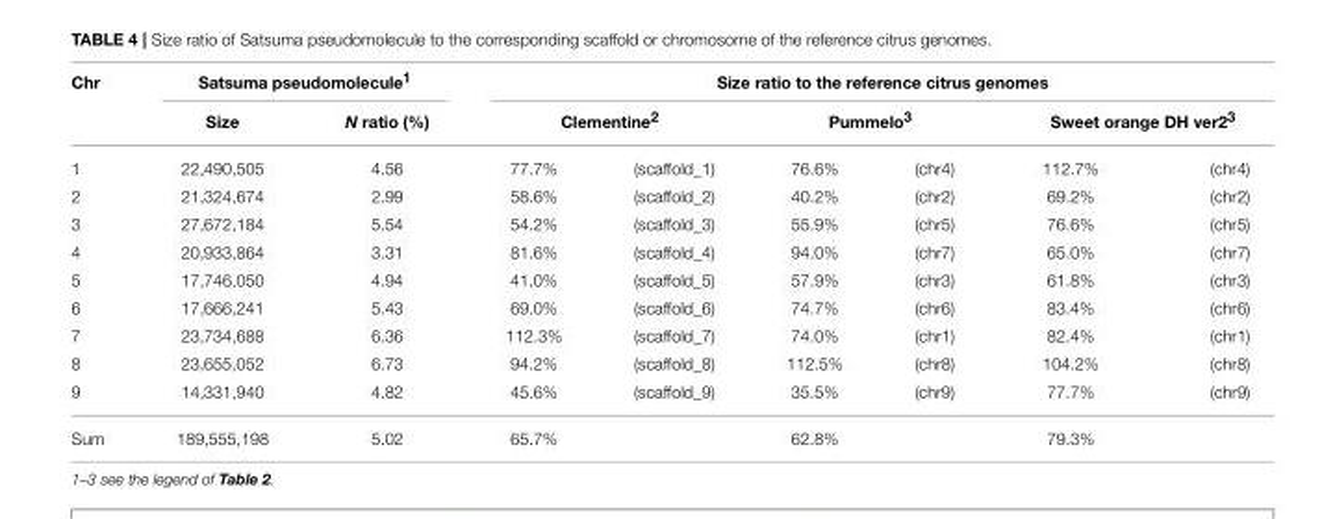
<table><thead><tr><td rowspan="3">Chr 1</td><td colspan="2">Satsuma pseudomolecule<sup>1</sup></td><td colspan="6">Size ratio to the reference citrus genomes</td></tr><tr><td rowspan="2">Size 22,490,505</td><td rowspan="2">N ratio (%) 4.56</td><td colspan="2">Clementine<sup>2</sup></td><td colspan="2">Pummelo<sup>3</sup></td><td colspan="2">Sweet orange DH ver2<sup>3</sup></td></tr><tr><td>77.7%</td><td>(scaffold_1)</td><td>76.6%</td><td>(chr4)</td><td>112.7%</td><td>(chr4)</td></tr></thead><tbody><tr><td>2</td><td>21,324,674</td><td>2.99</td><td>58.6%</td><td>(scaffold_2)</td><td>40.2%</td><td>(chr2)</td><td>69.2%</td><td>(chr2)</td></tr><tr><td>3</td><td>27,672,184</td><td>5.54</td><td>54.2%</td><td>(scaffold_3)</td><td>55.9%</td><td>(chr5)</td><td>76.6%</td><td>(chr5)</td></tr><tr><td>4</td><td>20,933,864</td><td>3.31</td><td>81.6%</td><td>(scaffold_4)</td><td>94.0%</td><td>(chr7)</td><td>65.0%</td><td>(chr7)</td></tr><tr><td>5</td><td>17,746,050</td><td>4.94</td><td>41.0%</td><td>(scaffold_5)</td><td>57.9%</td><td>(chr3)</td><td>61.8%</td><td>(chr3)</td></tr><tr><td>6</td><td>17,666,241</td><td>5.43</td><td>69.0%</td><td>(scaffold_6)</td><td>74.7%</td><td>(chr6)</td><td>83.4%</td><td>(chr6)</td></tr><tr><td>7</td><td>23,734,688</td><td>6.36</td><td>112.3%</td><td>(scaffold_7)</td><td>74.0%</td><td>(chr1)</td><td>82.4%</td><td>(chr1)</td></tr><tr><td>8</td><td>23,655,052</td><td>6.73</td><td>94.2%</td><td>(scaffold_8)</td><td>112.5%</td><td>(chr8)</td><td>104.2%</td><td>(chr8)</td></tr><tr><td>9</td><td>14,331,940</td><td>4.82</td><td>45.6%</td><td>(scaffold_9)</td><td>35.5%</td><td>(chr9)</td><td>77.7%</td><td>(chr9)</td></tr><tr><td>Sum</td><td>189,555,198</td><td>5.02</td><td>65.7%</td><td></td><td>62.8%</td><td></td><td>79.3%</td><td></td></tr></tbody></table>